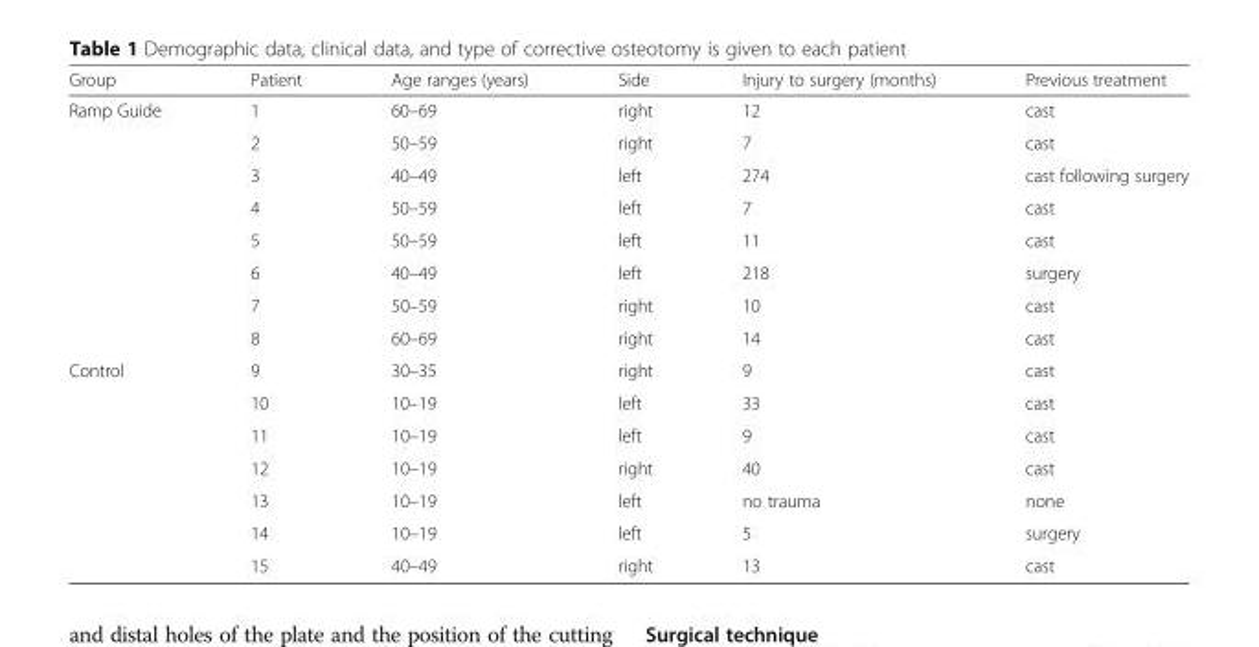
<table><thead><tr><td>Group</td><td>Patient</td><td>Age ranges (years)</td><td>Side</td><td>Injury to surgery (months)</td><td>Previous treatment</td></tr></thead><tbody><tr><td rowspan="8">Ramp Guide</td><td>1</td><td>60–69</td><td>right</td><td>12</td><td>cast</td></tr><tr><td>2</td><td>50–59</td><td>right</td><td>7</td><td>cast</td></tr><tr><td>3</td><td>40–49</td><td>left</td><td>274</td><td>cast following surgery</td></tr><tr><td>4</td><td>50–59</td><td>left</td><td>7</td><td>cast</td></tr><tr><td>5</td><td>50–59</td><td>left</td><td>11</td><td>cast</td></tr><tr><td>6</td><td>40–49</td><td>left</td><td>218</td><td>surgery</td></tr><tr><td>7</td><td>50–59</td><td>right</td><td>10</td><td>cast</td></tr><tr><td>8</td><td>60–69</td><td>right</td><td>14</td><td>cast</td></tr><tr><td rowspan="7">Control</td><td>9</td><td>30–35</td><td>right</td><td>9</td><td>cast</td></tr><tr><td>10</td><td>10–19</td><td>left</td><td>33</td><td>cast</td></tr><tr><td>11</td><td>10–19</td><td>left</td><td>9</td><td>cast</td></tr><tr><td>12</td><td>10–19</td><td>right</td><td>40</td><td>cast</td></tr><tr><td>13</td><td>10–19</td><td>left</td><td>no trauma</td><td>none</td></tr><tr><td>14</td><td>10–19</td><td>left</td><td>5</td><td>surgery</td></tr><tr><td>15</td><td>40–49</td><td>right</td><td>13</td><td>cast</td></tr></tbody></table>